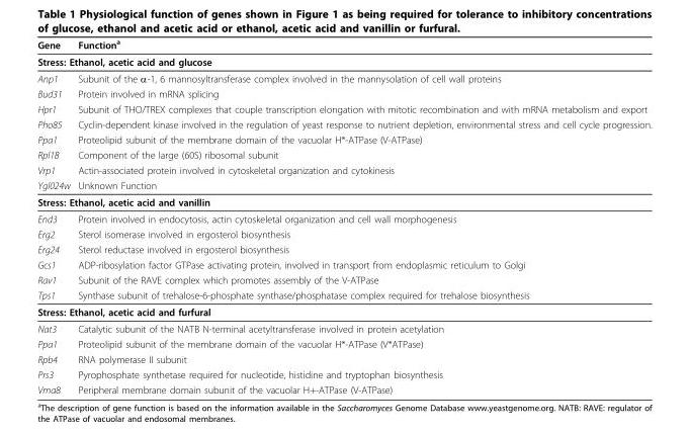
<table><thead><tr><td>Gene</td><td>Function<sup>a</sup></td></tr></thead><tbody><tr><td colspan="2">Stress: Ethanol, acetic acid and glucose</td></tr><tr><td>Anp1</td><td>Subunit of the α-1, 6 mannosyltransferase complex involved in the mannysolation of cell wall proteins</td></tr><tr><td>Bud31</td><td>Protein involved in mRNA splicing</td></tr><tr><td>Hpr1</td><td>Subunit of THO/TREX complexes that couple transcription elongation with mitotic recombination and with mRNA metabolism and export</td></tr><tr><td>Pho85</td><td>Cyclin-dependent kinase involved in the regulation of yeast response to nutrient depletion, environmental stress and cell cycle progression.</td></tr><tr><td>Ppa1</td><td>Proteolipid subunit of the membrane domain of the vacuolar H*-ATPase (V-ATPase)</td></tr><tr><td>Rpl1B</td><td>Component of the large (60S) ribosomal subunit</td></tr><tr><td>Vrp1</td><td>Actin-associated protein involved in cytoskeletal organization and cytokinesis</td></tr><tr><td>Ygl024w</td><td>Unknown Function</td></tr><tr><td colspan="2">Stress: Ethanol, acetic acid and vanillin</td></tr><tr><td>End3</td><td>Protein involved in endocytosis, actin cytoskeletal organization and cell wall morphogenesis</td></tr><tr><td>Erg2</td><td>Sterol isomerase involved in ergosterol biosynthesis</td></tr><tr><td>Erg24</td><td>Sterol reductase involved in ergosterol biosynthesis</td></tr><tr><td>Gcs1</td><td>ADP-ribosylation factor GTPase activating protein, involved in transport from endoplasmic reticulum to Golgi</td></tr><tr><td>Rav1</td><td>Subunit of the RAVE complex which promotes assembly of the V-ATPase</td></tr><tr><td>Tps1</td><td>Synthase subunit of trehalose-6-phosphate synthase/phosphatase complex required for trehalose biosynthesis</td></tr><tr><td colspan="2">Stress: Ethanol, acetic acid and furfural</td></tr><tr><td>Nat3</td><td>Catalytic subunit of the NATB N-terminal acetyltransferase involved in protein acetylation</td></tr><tr><td>Ppa1</td><td>Proteolipid subunit of the membrane domain of the vacuolar H*-ATPase (V*ATPase)</td></tr><tr><td>Rpb4</td><td>RNA polymerase II subunit</td></tr><tr><td>Prs3</td><td>Pyrophosphate synthetase required for nucleotide, histidine and tryptophan biosynthesis</td></tr><tr><td>Vma8</td><td>Peripheral membrane domain subunit of the vacuolar H+-ATPase (V-ATPase)</td></tr></tbody></table>